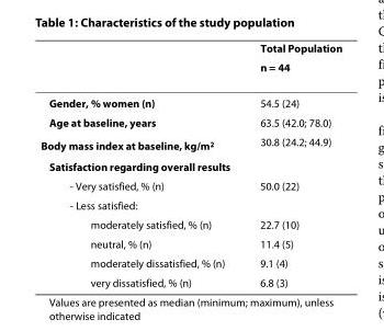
<table><thead><tr><td rowspan="2"></td><td rowspan="2">Total Population n = 44</td></tr><tr></tr></thead><tbody><tr><td>Gender, % women (n)</td><td>54.5 (24)</td></tr><tr><td>Age at baseline, years</td><td>63.5 (42.0; 78.0)</td></tr><tr><td>Body mass index at baseline, kg/m<sup>2</sup></td><td>30.8 (24.2; 44.9)</td></tr><tr><td colspan="2">Satisfaction regarding overall results</td></tr><tr><td>- Very satisfied, % (n)</td><td>50.0 (22)</td></tr><tr><td colspan="2">- Less satisfied:</td></tr><tr><td>moderately satisfied, % (n)</td><td>22.7 (10)</td></tr><tr><td>neutral, % (n)</td><td>11.4 (5)</td></tr><tr><td>moderately dissatisfied, % (n)</td><td>9.1 (4)</td></tr><tr><td>very dissatisfied, % (n)</td><td>6.8 (3)</td></tr></tbody></table>